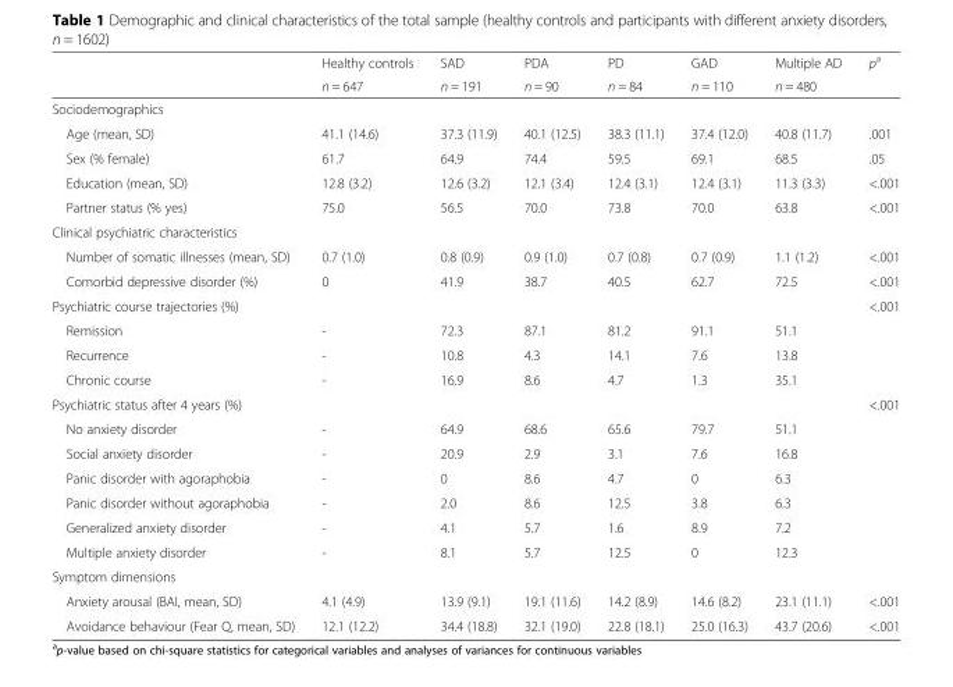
<table><thead><tr><td rowspan="2"></td><td rowspan="2">Healthy controls n = 647</td><td rowspan="2">SAD n = 191</td><td rowspan="2">PDA n = 90</td><td rowspan="2">PD n = 84</td><td rowspan="2">GAD n = 110</td><td rowspan="2">Multiple AD n = 480</td><td rowspan="2">p<sup>a</sup></td></tr><tr></tr></thead><tbody><tr><td colspan="8">Sociodemographics</td></tr><tr><td>Age (mean, SD)</td><td>41.1 (14.6)</td><td>37.3 (11.9)</td><td>40.1 (12.5)</td><td>38.3 (11.1)</td><td>37.4 (12.0)</td><td>40.8 (11.7)</td><td>.001</td></tr><tr><td>Sex (% female)</td><td>61.7</td><td>64.9</td><td>74.4</td><td>59.5</td><td>69.1</td><td>68.5</td><td>.05</td></tr><tr><td>Education (mean, SD)</td><td>12.8 (3.2)</td><td>12.6 (3.2)</td><td>12.1 (3.4)</td><td>12.4 (3.1)</td><td>12.4 (3.1)</td><td>11.3 (3.3)</td><td>&lt;.001</td></tr><tr><td>Partner status (% yes)</td><td>75.0</td><td>56.5</td><td>70.0</td><td>73.8</td><td>70.0</td><td>63.8</td><td>&lt;.001</td></tr><tr><td colspan="8">Clinical psychiatric characteristics</td></tr><tr><td>Number of somatic illnesses (mean, SD)</td><td>0.7 (1.0)</td><td>0.8 (0.9)</td><td>0.9 (1.0)</td><td>0.7 (0.8)</td><td>0.7 (0.9)</td><td>1.1 (1.2)</td><td>&lt;.001</td></tr><tr><td>Comorbid depressive disorder (%)</td><td>0</td><td>41.9</td><td>38.7</td><td>40.5</td><td>62.7</td><td>72.5</td><td>&lt;.001</td></tr><tr><td>Psychiatric course trajectories (%)</td><td></td><td></td><td></td><td></td><td></td><td></td><td>&lt;.001</td></tr><tr><td>Remission</td><td>-</td><td>72.3</td><td>87.1</td><td>81.2</td><td>91.1</td><td>51.1</td><td></td></tr><tr><td>Recurrence</td><td>-</td><td>10.8</td><td>4.3</td><td>14.1</td><td>7.6</td><td>13.8</td><td></td></tr><tr><td>Chronic course</td><td>-</td><td>16.9</td><td>8.6</td><td>4.7</td><td>1.3</td><td>35.1</td><td></td></tr><tr><td>Psychiatric status after 4 years (%)</td><td></td><td></td><td></td><td></td><td></td><td></td><td>&lt;.001</td></tr><tr><td>No anxiety disorder</td><td>-</td><td>64.9</td><td>68.6</td><td>65.6</td><td>79.7</td><td>51.1</td><td></td></tr><tr><td>Social anxiety disorder</td><td>-</td><td>20.9</td><td>2.9</td><td>3.1</td><td>7.6</td><td>16.8</td><td></td></tr><tr><td>Panic disorder with agoraphobia</td><td>-</td><td>0</td><td>8.6</td><td>4.7</td><td>0</td><td>6.3</td><td></td></tr><tr><td>Panic disorder without agoraphobia</td><td>-</td><td>2.0</td><td>8.6</td><td>12.5</td><td>3.8</td><td>6.3</td><td></td></tr><tr><td>Generalized anxiety disorder</td><td>-</td><td>4.1</td><td>5.7</td><td>1.6</td><td>8.9</td><td>7.2</td><td></td></tr><tr><td>Multiple anxiety disorder</td><td>-</td><td>8.1</td><td>5.7</td><td>12.5</td><td>0</td><td>12.3</td><td></td></tr><tr><td colspan="8">Symptom dimensions</td></tr><tr><td>Anxiety arousal (BAI, mean, SD)</td><td>4.1 (4.9)</td><td>13.9 (9.1)</td><td>19.1 (11.6)</td><td>14.2 (8.9)</td><td>14.6 (8.2)</td><td>23.1 (11.1)</td><td>&lt;.001</td></tr><tr><td>Avoidance behaviour (Fear Q, mean, SD)</td><td>12.1 (12.2)</td><td>34.4 (18.8)</td><td>32.1 (19.0)</td><td>22.8 (18.1)</td><td>25.0 (16.3)</td><td>43.7 (20.6)</td><td>&lt;.001</td></tr></tbody></table>